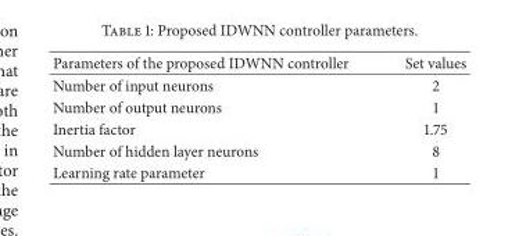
<table><thead><tr><td>Parameters of the proposed IDWNN controller</td><td>Set values</td></tr></thead><tbody><tr><td>Number of input neurons</td><td>2</td></tr><tr><td>Number of output neurons</td><td>1</td></tr><tr><td>Inertia factor</td><td>1.75</td></tr><tr><td>Number of hidden layer neurons</td><td>8</td></tr><tr><td>Learning rate parameter</td><td>1</td></tr></tbody></table>